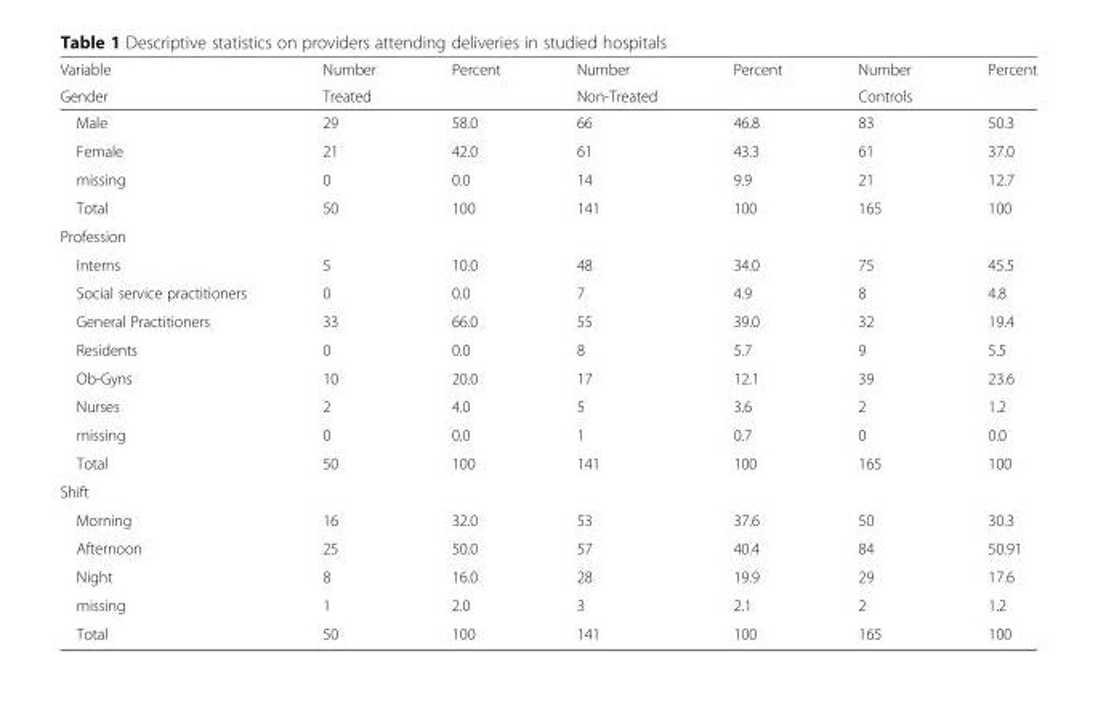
<table><thead><tr><td rowspan="2">Variable Gender</td><td rowspan="2">Number Treated</td><td rowspan="2">Percent</td><td rowspan="2">Number Non-Treated</td><td rowspan="2">Percent</td><td rowspan="2">Number Controls</td><td rowspan="2">Percent</td></tr><tr></tr></thead><tbody><tr><td>Male</td><td>29</td><td>58.0</td><td>66</td><td>46.8</td><td>83</td><td>50.3</td></tr><tr><td>Female</td><td>21</td><td>42.0</td><td>61</td><td>43.3</td><td>61</td><td>37.0</td></tr><tr><td>missing</td><td>0</td><td>0.0</td><td>14</td><td>9.9</td><td>21</td><td>12.7</td></tr><tr><td>Total</td><td>50</td><td>100</td><td>141</td><td>100</td><td>165</td><td>100</td></tr><tr><td colspan="7">Profession</td></tr><tr><td>Interns</td><td>5</td><td>10.0</td><td>48</td><td>34.0</td><td>75</td><td>45.5</td></tr><tr><td>Social service practitioners</td><td>0</td><td>0.0</td><td>7</td><td>4.9</td><td>8</td><td>4.8</td></tr><tr><td>General Practitioners</td><td>33</td><td>66.0</td><td>55</td><td>39.0</td><td>32</td><td>19.4</td></tr><tr><td>Residents</td><td>0</td><td>0.0</td><td>8</td><td>5.7</td><td>9</td><td>5.5</td></tr><tr><td>Ob-Gyns</td><td>10</td><td>20.0</td><td>17</td><td>12.1</td><td>39</td><td>23.6</td></tr><tr><td>Nurses</td><td>2</td><td>4.0</td><td>5</td><td>3.6</td><td>2</td><td>1.2</td></tr><tr><td>missing</td><td>0</td><td>0.0</td><td>1</td><td>0.7</td><td>0</td><td>0.0</td></tr><tr><td>Total</td><td>50</td><td>100</td><td>141</td><td>100</td><td>165</td><td>100</td></tr><tr><td colspan="7">Shift</td></tr><tr><td>Morning</td><td>16</td><td>32.0</td><td>53</td><td>37.6</td><td>50</td><td>30.3</td></tr><tr><td>Afternoon</td><td>25</td><td>50.0</td><td>57</td><td>40.4</td><td>84</td><td>50.91</td></tr><tr><td>Night</td><td>8</td><td>16.0</td><td>28</td><td>19.9</td><td>29</td><td>17.6</td></tr><tr><td>missing</td><td>1</td><td>2.0</td><td>3</td><td>2.1</td><td>2</td><td>1.2</td></tr><tr><td>Total</td><td>50</td><td>100</td><td>141</td><td>100</td><td>165</td><td>100</td></tr></tbody></table>